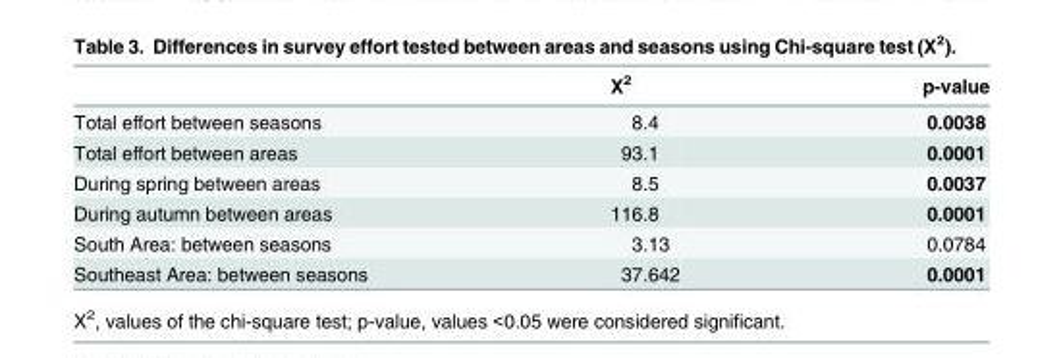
<table><thead><tr><td></td><td>X<sup>2</sup></td><td>p-value</td></tr></thead><tbody><tr><td>Total effort between seasons</td><td>8.4</td><td>0.0038</td></tr><tr><td>Total effort between areas</td><td>93.1</td><td>0.0001</td></tr><tr><td>During spring between areas</td><td>8.5</td><td>0.0037</td></tr><tr><td>During autumn between areas</td><td>116.8</td><td>0.0001</td></tr><tr><td>South Area: between seasons</td><td>3.13</td><td>0.0784</td></tr><tr><td>Southeast Area: between seasons</td><td>37.642</td><td>0.0001</td></tr></tbody></table>